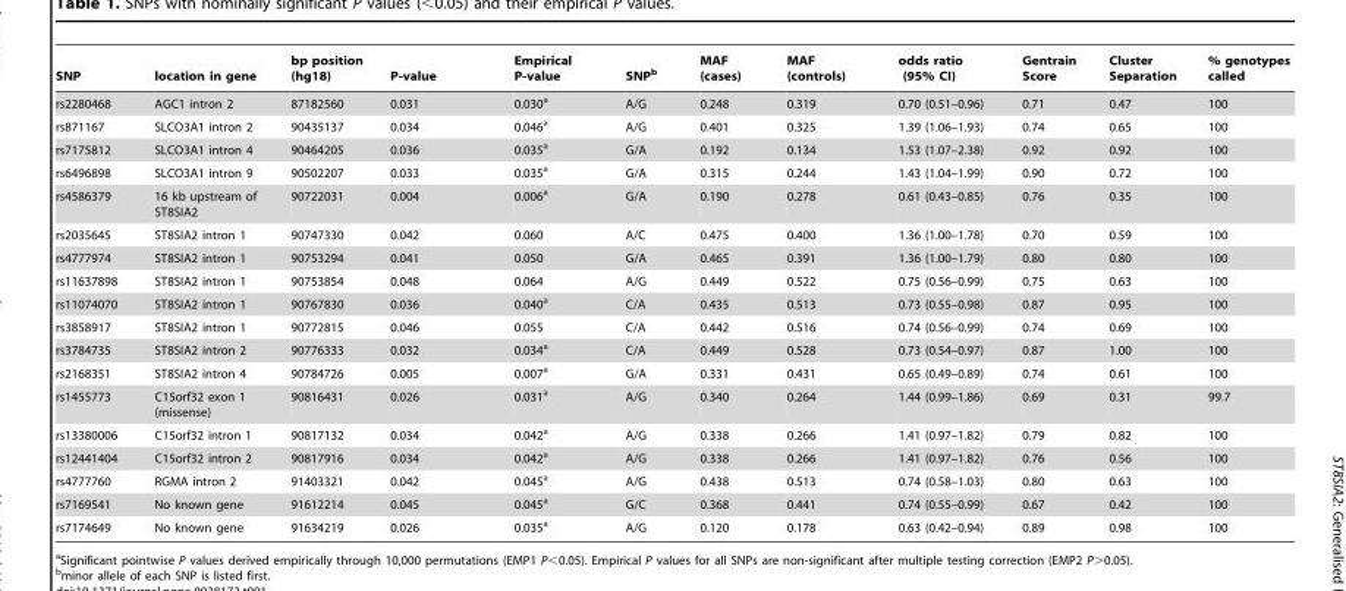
<table><thead><tr><td>SNP</td><td>location in gene</td><td>bp position (hg18)</td><td>P-value</td><td>Empirical P-value</td><td>SNP<sup>b</sup></td><td>MAF (cases)</td><td>MAF (controls)</td><td>odds ratio (95% CI)</td><td>Gentrain Score</td><td>Cluster Separation</td><td>% genotypes called</td></tr></thead><tbody><tr><td>rs2280468</td><td>AGC1 intron 2</td><td>87182560</td><td>0.031</td><td>0.030<sup>a</sup></td><td>A/G</td><td>0.248</td><td>0.319</td><td>0.70 (0.51–0.96)</td><td>0.71</td><td>0.47</td><td>100</td></tr><tr><td>rs871167</td><td>SLCO3A1 intron 2</td><td>90435137</td><td>0.034</td><td>0.046<sup>a</sup></td><td>A/G</td><td>0.401</td><td>0.325</td><td>1.39 (1.06–1.93)</td><td>0.74</td><td>0.65</td><td>100</td></tr><tr><td>rs7175812</td><td>SLCO3A1 intron 4</td><td>90464205</td><td>0.036</td><td>0.035<sup>a</sup></td><td>G/A</td><td>0.192</td><td>0.134</td><td>1.53 (1.07–2.38)</td><td>0.92</td><td>0.92</td><td>100</td></tr><tr><td>rs6496898</td><td>SLCO3A1 intron 9</td><td>90502207</td><td>0.033</td><td>0.035<sup>a</sup></td><td>G/A</td><td>0.315</td><td>0.244</td><td>1.43 (1.04–1.99)</td><td>0.90</td><td>0.72</td><td>100</td></tr><tr><td>rs4586379</td><td>16 kb upstream of ST8SIA2</td><td>90722031</td><td>0.004</td><td>0.006<sup>a</sup></td><td>G/A</td><td>0.190</td><td>0.278</td><td>0.61 (0.43–0.85)</td><td>0.76</td><td>0.35</td><td>100</td></tr><tr><td>rs2035645</td><td>ST8SIA2 intron 1</td><td>90747330</td><td>0.042</td><td>0.060</td><td>A/C</td><td>0.475</td><td>0.400</td><td>1.36 (1.00–1.78)</td><td>0.70</td><td>0.59</td><td>100</td></tr><tr><td>rs4777974</td><td>ST8SIA2 intron 1</td><td>90753294</td><td>0.041</td><td>0.050</td><td>G/A</td><td>0.465</td><td>0.391</td><td>1.36 (1.00–1.79)</td><td>0.80</td><td>0.80</td><td>100</td></tr><tr><td>rs11637898</td><td>ST8SIA2 intron 1</td><td>90753854</td><td>0.048</td><td>0.064</td><td>A/G</td><td>0.449</td><td>0.522</td><td>0.75 (0.56–0.99)</td><td>0.75</td><td>0.63</td><td>100</td></tr><tr><td>rs11074070</td><td>ST8SIA2 intron 1</td><td>90767830</td><td>0.036</td><td>0.040<sup>a</sup></td><td>C/A</td><td>0.435</td><td>0.513</td><td>0.73 (0.55–0.98)</td><td>0.87</td><td>0.95</td><td>100</td></tr><tr><td>rs3858917</td><td>ST8SIA2 intron 1</td><td>90772815</td><td>0.046</td><td>0.055</td><td>C/A</td><td>0.442</td><td>0.516</td><td>0.74 (0.56–0.99)</td><td>0.74</td><td>0.69</td><td>100</td></tr><tr><td>rs3784735</td><td>ST8SIA2 intron 2</td><td>90776333</td><td>0.032</td><td>0.034<sup>a</sup></td><td>C/A</td><td>0.449</td><td>0.528</td><td>0.73 (0.54–0.97)</td><td>0.87</td><td>1.00</td><td>100</td></tr><tr><td>rs2168351</td><td>ST8SIA2 intron 4</td><td>90784726</td><td>0.005</td><td>0.007<sup>a</sup></td><td>G/A</td><td>0.331</td><td>0.431</td><td>0.65 (0.49–0.89)</td><td>0.74</td><td>0.61</td><td>100</td></tr><tr><td>rs1455773</td><td>C15orf32 exon 1 (missense)</td><td>90816431</td><td>0.026</td><td>0.031<sup>a</sup></td><td>A/G</td><td>0.340</td><td>0.264</td><td>1.44 (0.99–1.86)</td><td>0.69</td><td>0.31</td><td>99.7</td></tr><tr><td>rs13380006</td><td>C15orf32 intron 1</td><td>90817132</td><td>0.034</td><td>0.042<sup>a</sup></td><td>A/G</td><td>0.338</td><td>0.266</td><td>1.41 (0.97–1.82)</td><td>0.79</td><td>0.82</td><td>100</td></tr><tr><td>rs12441404</td><td>C15orf32 intron 2</td><td>90817916</td><td>0.034</td><td>0.042<sup>a</sup></td><td>A/G</td><td>0.338</td><td>0.266</td><td>1.41 (0.97–1.82)</td><td>0.76</td><td>0.56</td><td>100</td></tr><tr><td>rs4777760</td><td>RGMA intron 2</td><td>91403321</td><td>0.042</td><td>0.045<sup>a</sup></td><td>A/G</td><td>0.438</td><td>0.513</td><td>0.74 (0.58–1.03)</td><td>0.80</td><td>0.63</td><td>100</td></tr><tr><td>rs7169541</td><td>No known gene</td><td>91612214</td><td>0.045</td><td>0.045<sup>a</sup></td><td>G/C</td><td>0.368</td><td>0.441</td><td>0.74 (0.55–0.99)</td><td>0.67</td><td>0.42</td><td>100</td></tr><tr><td>rs7174649</td><td>No known gene</td><td>91634219</td><td>0.026</td><td>0.035<sup>a</sup></td><td>A/G</td><td>0.120</td><td>0.178</td><td>0.63 (0.42–0.94)</td><td>0.89</td><td>0.98</td><td>100</td></tr></tbody></table>